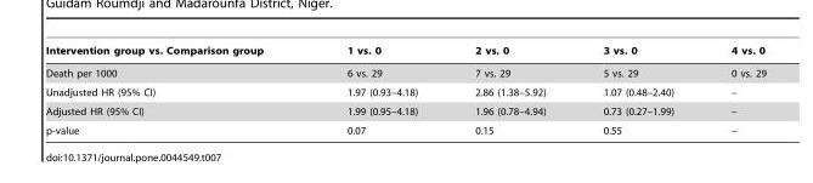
<table><thead><tr><td>Intervention group vs. Comparison group</td><td>1 vs. 0</td><td>2 vs. 0</td><td>3 vs. 0</td><td>4 vs. 0</td></tr></thead><tbody><tr><td>Death per 1000</td><td>6 vs. 29</td><td>7 vs. 29</td><td>5 vs. 29</td><td>0 vs. 29</td></tr><tr><td>Unadjusted HR (95% CI)</td><td>1.97 (0.93–4.18)</td><td>2.86 (1.38–5.92)</td><td>1.07 (0.48–2.40)</td><td>–</td></tr><tr><td>Adjusted HR (95% CI)</td><td>1.99 (0.95–4.18)</td><td>1.96 (0.78–4.94)</td><td>0.73 (0.27–1.99)</td><td>–</td></tr><tr><td>p-value</td><td>0.07</td><td>0.15</td><td>0.55</td><td>–</td></tr></tbody></table>